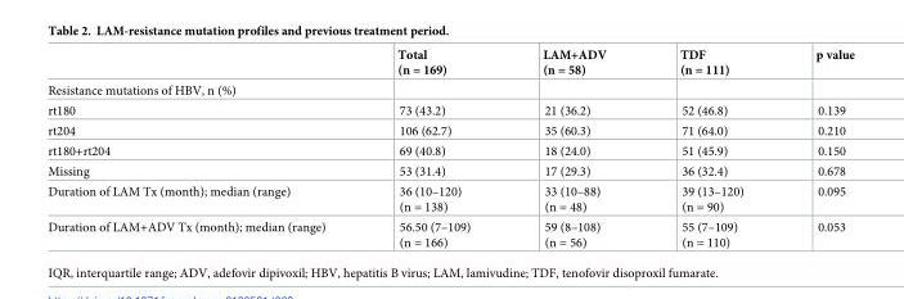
<table><thead><tr><td></td><td>Total (n = 169)</td><td>LAM+ADV (n = 58)</td><td>TDF (n = 111)</td><td>p value</td></tr></thead><tbody><tr><td colspan="5">Resistance mutations of HBV, n (%)</td></tr><tr><td>rt180</td><td>73 (43.2)</td><td>21 (36.2)</td><td>52 (46.8)</td><td>0.139</td></tr><tr><td>rt204</td><td>106 (62.7)</td><td>35 (60.3)</td><td>71 (64.0)</td><td>0.210</td></tr><tr><td>rt180+rt204</td><td>69 (40.8)</td><td>18 (24.0)</td><td>51 (45.9)</td><td>0.150</td></tr><tr><td>Missing</td><td>53 (31.4)</td><td>17 (29.3)</td><td>36 (32.4)</td><td>0.678</td></tr><tr><td>Duration of LAM Tx (month); median (range)</td><td>36 (10–120) (n = 138)</td><td>33 (10–88) (n = 48)</td><td>39 (13–120) (n = 90)</td><td>0.095</td></tr><tr><td>Duration of LAM+ADV Tx (month); median (range)</td><td>56.50 (7–109) (n = 166)</td><td>59 (8–108) (n = 56)</td><td>55 (7–109) (n = 110)</td><td>0.053</td></tr></tbody></table>